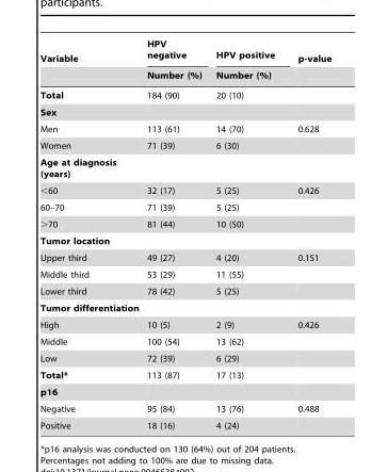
<table><thead><tr><td rowspan="2">Variable</td><td rowspan="2">HPV negative Number (%)</td><td rowspan="2">HPV positive Number (%)</td><td rowspan="2">p-value</td></tr><tr></tr></thead><tbody><tr><td>Total</td><td>184 (90)</td><td>20 (10)</td><td></td></tr><tr><td colspan="4">Sex</td></tr><tr><td>Men</td><td>113 (61)</td><td>14 (70)</td><td>0.628</td></tr><tr><td>Women</td><td>71 (39)</td><td>6 (30)</td><td></td></tr><tr><td colspan="4">Age at diagnosis (years)</td></tr><tr><td>&lt;60</td><td>32 (17)</td><td>5 (25)</td><td>0.426</td></tr><tr><td>60–70</td><td>71 (39)</td><td>5 (25)</td><td></td></tr><tr><td>&gt;70</td><td>81 (44)</td><td>10 (50)</td><td></td></tr><tr><td colspan="4">Tumor location</td></tr><tr><td>Upper third</td><td>49 (27)</td><td>4 (20)</td><td>0.151</td></tr><tr><td>Middle third</td><td>53 (29)</td><td>11 (55)</td><td></td></tr><tr><td>Lower third</td><td>78 (42)</td><td>5 (25)</td><td></td></tr><tr><td colspan="4">Tumor differentiation</td></tr><tr><td>High</td><td>10 (5)</td><td>2 (9)</td><td>0.426</td></tr><tr><td>Middle</td><td>100 (54)</td><td>13 (62)</td><td></td></tr><tr><td>Low</td><td>72 (39)</td><td>6 (29)</td><td></td></tr><tr><td>Total*</td><td>113 (87)</td><td>17 (13)</td><td></td></tr><tr><td colspan="4">p16</td></tr><tr><td>Negative</td><td>95 (84)</td><td>13 (76)</td><td>0.488</td></tr><tr><td>Positive</td><td>18 (16)</td><td>4 (24)</td><td></td></tr></tbody></table>